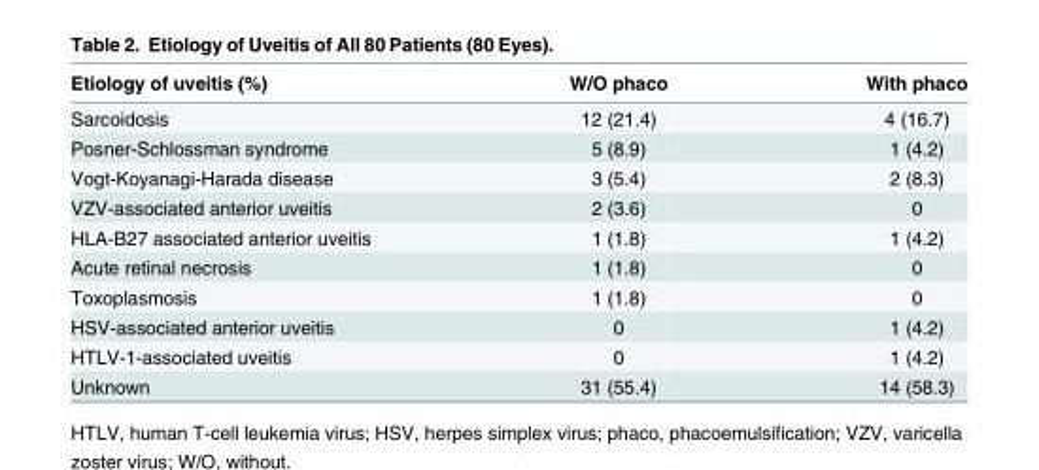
<table><thead><tr><td>Etiology of uveitis (%)</td><td>W/O phaco</td><td>With phaco</td></tr></thead><tbody><tr><td>Sarcoidosis</td><td>12 (21.4)</td><td>4 (16.7)</td></tr><tr><td>Posner-Schlossman syndrome</td><td>5 (8.9)</td><td>1 (4.2)</td></tr><tr><td>Vogt-Koyanagi-Harada disease</td><td>3 (5.4)</td><td>2 (8.3)</td></tr><tr><td>VZV-associated anterior uveitis</td><td>2 (3.6)</td><td>0</td></tr><tr><td>HLA-B27 associated anterior uveitis</td><td>1 (1.8)</td><td>1 (4.2)</td></tr><tr><td>Acute retinal necrosis</td><td>1 (1.8)</td><td>0</td></tr><tr><td>Toxoplasmosis</td><td>1 (1.8)</td><td>0</td></tr><tr><td>HSV-associated anterior uveitis</td><td>0</td><td>1 (4.2)</td></tr><tr><td>HTLV-1-associated uveitis</td><td>0</td><td>1 (4.2)</td></tr><tr><td>Unknown</td><td>31 (55.4)</td><td>14 (58.3)</td></tr></tbody></table>